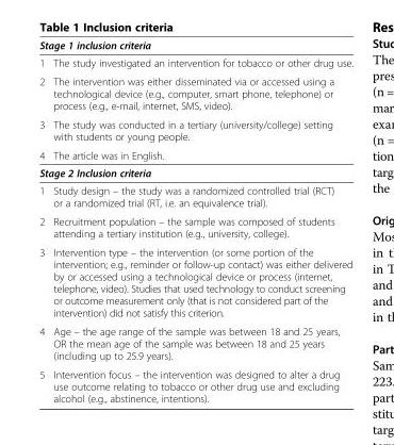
<table><thead><tr><td colspan="2">Stage 1 inclusion criteria</td></tr><tr><td>1</td><td>The study investigated an intervention for tobacco or other drug use.</td></tr></thead><tbody><tr><td>2</td><td>The intervention was either disseminated via or accessed using a technological device (e.g., computer, smart phone, telephone) or process (e.g., e-mail, internet, SMS, video).</td></tr><tr><td>3</td><td>The study was conducted in a tertiary (university/college) setting with students or young people.</td></tr><tr><td>4</td><td>The article was in English.</td></tr><tr><td colspan="2">Stage 2 Inclusion criteria</td></tr><tr><td>1</td><td>Study design – the study was a randomized controlled trial (RCT) or a randomized trial (RT, i.e. an equivalence trial).</td></tr><tr><td>2</td><td>Recruitment population – the sample was composed of students attending a tertiary institution (e.g., university, college).</td></tr><tr><td>3</td><td>Intervention type – the intervention (or some portion of the intervention; e.g., reminder or follow-up contact) was either delivered by or accessed using a technological device or process (internet, telephone, video). Studies that used technology to conduct screening or outcome measurement only (that is not considered part of the intervention) did not satisfy this criterion.</td></tr><tr><td>4</td><td>Age – the age range of the sample was between 18 and 25 years, OR the mean age of the sample was between 18 and 25 years (including up to 25.9 years).</td></tr><tr><td>5</td><td>Intervention focus – the intervention was designed to alter a drug use outcome relating to tobacco or other drug use and excluding alcohol (e.g., abstinence, intentions).</td></tr></tbody></table>